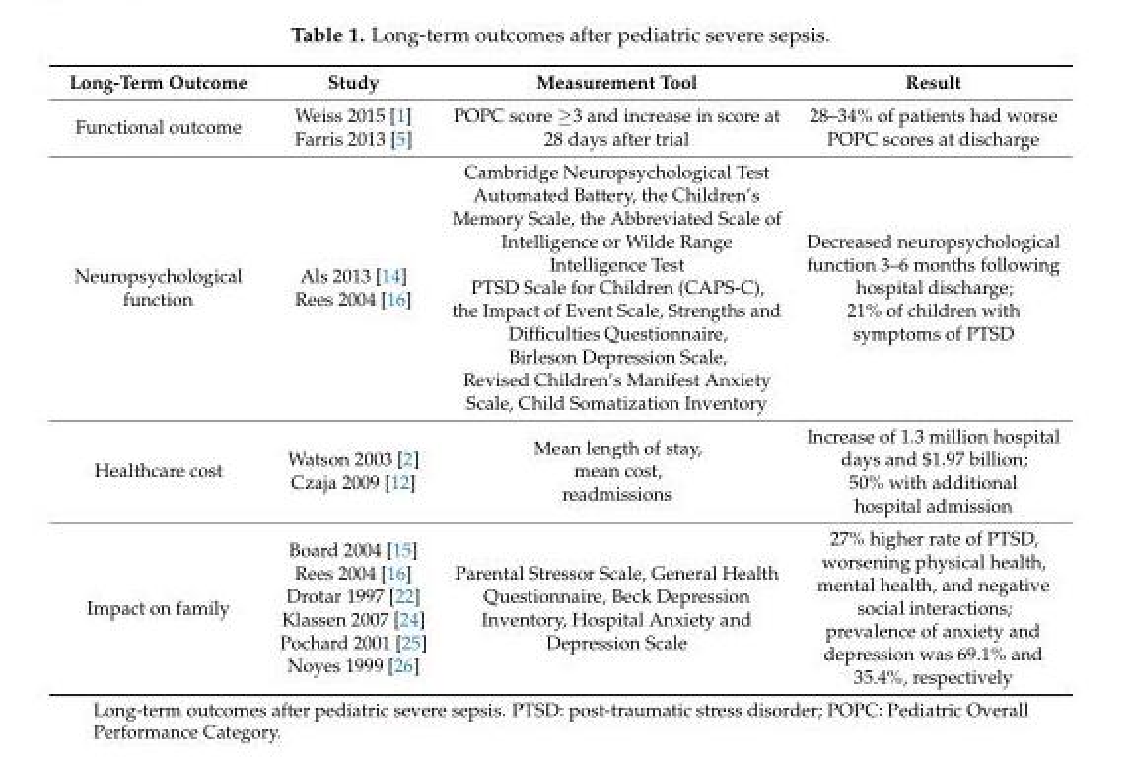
<table><thead><tr><td>Long-Term Outcome</td><td>Study</td><td>Measurement Tool</td><td>Result</td></tr></thead><tbody><tr><td>Functional outcome</td><td>Weiss 2015 [1] Farris 2013 [5]</td><td>POPC score ≥3 and increase in score at 28 days after trial</td><td>28–34% of patients had worse POPC scores at discharge</td></tr><tr><td>Neuropsychological function</td><td>Als 2013 [14] Rees 2004 [16]</td><td>Cambridge Neuropsychological Test Automated Battery, the Children’s Memory Scale, the Abbreviated Scale of Intelligence or Wilde Range Intelligence Test PTSD Scale for Children (CAPS-C), the Impact of Event Scale, Strengths and Difficulties Questionnaire, Birleson Depression Scale, Revised Children’s Manifest Anxiety Scale, Child Somatization Inventory</td><td>Decreased neuropsychological function 3–6 months following hospital discharge; 21% of children with symptoms of PTSD</td></tr><tr><td>Healthcare cost</td><td>Watson 2003 [2] Czaja 2009 [12]</td><td>Mean length of stay, mean cost, readmissions</td><td>Increase of 1.3 million hospital days and $1.97 billion; 50% with additional hospital admission</td></tr><tr><td>Impact on family</td><td>Board 2004 [15] Rees 2004 [16] Drotar 1997 [22] Klassen 2007 [24] Pochard 2001 [25] Noyes 1999 [26]</td><td>Parental Stressor Scale, General Health Questionnaire, Beck Depression Inventory, Hospital Anxiety and Depression Scale</td><td>27% higher rate of PTSD, worsening physical health, mental health, and negative social interactions; prevalence of anxiety and depression was 69.1% and 35.4%, respectively</td></tr></tbody></table>